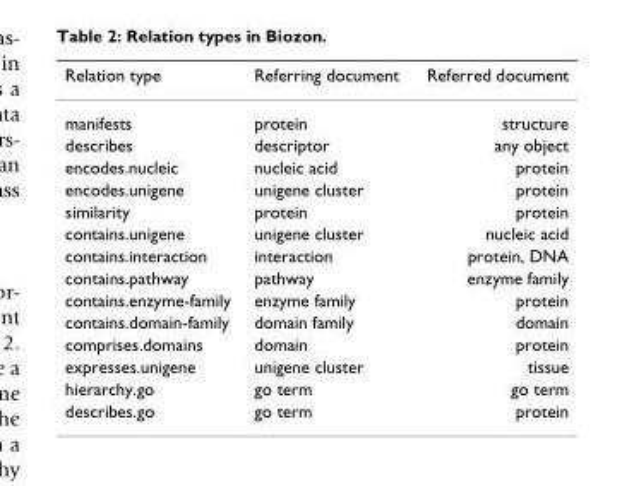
<table><thead><tr><td>Relation type</td><td>Referring document</td><td>Referred document</td></tr></thead><tbody><tr><td>manifests</td><td>protein</td><td>structure</td></tr><tr><td>describes</td><td>descriptor</td><td>any object</td></tr><tr><td>encodes.nucleic</td><td>nucleic acid</td><td>protein</td></tr><tr><td>encodes.unigene</td><td>unigene cluster</td><td>protein</td></tr><tr><td>similarity</td><td>protein</td><td>protein</td></tr><tr><td>contains.unigene</td><td>unigene cluster</td><td>nucleic acid</td></tr><tr><td>contains.interaction</td><td>interaction</td><td>protein, DNA</td></tr><tr><td>contains.pathway</td><td>pathway</td><td>enzyme family</td></tr><tr><td>contains.enzyme-family</td><td>enzyme family</td><td>protein</td></tr><tr><td>contains.domain-family</td><td>domain family</td><td>domain</td></tr><tr><td>comprises.domains</td><td>domain</td><td>protein</td></tr><tr><td>expresses.unigene</td><td>unigene cluster</td><td>tissue</td></tr><tr><td>hierarchy.go</td><td>go term</td><td>go term</td></tr><tr><td>describes.go</td><td>go term</td><td>protein</td></tr></tbody></table>